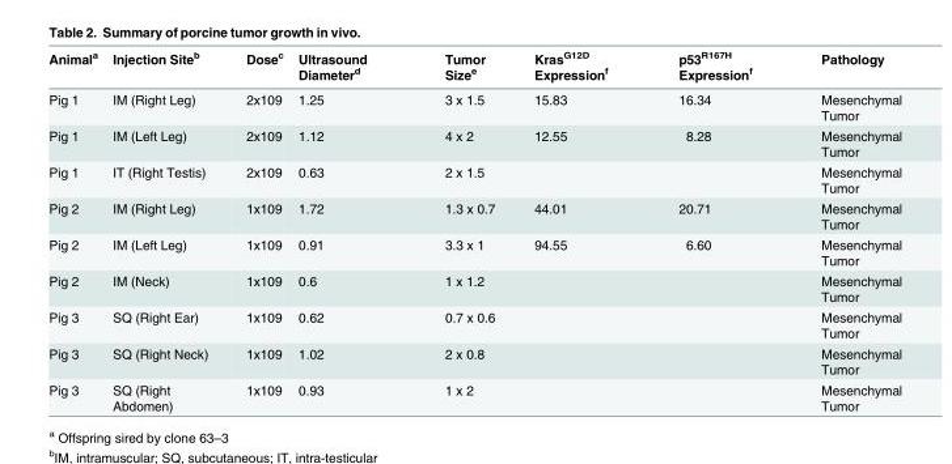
<table><thead><tr><td>Animal<sup>a</sup></td><td>Injection Site<sup>b</sup></td><td>Dose<sup>c</sup></td><td>Ultrasound Diameter<sup>d</sup></td><td>Tumor Size<sup>e</sup></td><td>Kras<sup>G12D</sup> Expression<sup>f</sup></td><td>p53<sup>R167H</sup> Expression<sup>f</sup></td><td>Pathology</td></tr></thead><tbody><tr><td>Pig 1</td><td>IM (Right Leg)</td><td>2x109</td><td>1.25</td><td>3 x 1.5</td><td>15.83</td><td>16.34</td><td>Mesenchymal Tumor</td></tr><tr><td>Pig 1</td><td>IM (Left Leg)</td><td>2x109</td><td>1.12</td><td>4 x 2</td><td>12.55</td><td>8.28</td><td>Mesenchymal Tumor</td></tr><tr><td>Pig 1</td><td>IT (Right Testis)</td><td>2x109</td><td>0.63</td><td>2 x 1.5</td><td></td><td></td><td>Mesenchymal Tumor</td></tr><tr><td>Pig 2</td><td>IM (Right Leg)</td><td>1x109</td><td>1.72</td><td>1.3 x 0.7</td><td>44.01</td><td>20.71</td><td>Mesenchymal Tumor</td></tr><tr><td>Pig 2</td><td>IM (Left Leg)</td><td>1x109</td><td>0.91</td><td>3.3 x 1</td><td>94.55</td><td>6.60</td><td>Mesenchymal Tumor</td></tr><tr><td>Pig 2</td><td>IM (Neck)</td><td>1x109</td><td>0.6</td><td>1 x 1.2</td><td></td><td></td><td>Mesenchymal Tumor</td></tr><tr><td>Pig 3</td><td>SQ (Right Ear)</td><td>1x109</td><td>0.62</td><td>0.7 x 0.6</td><td></td><td></td><td>Mesenchymal Tumor</td></tr><tr><td>Pig 3</td><td>SQ (Right Neck)</td><td>1x109</td><td>1.02</td><td>2 x 0.8</td><td></td><td></td><td>Mesenchymal Tumor</td></tr><tr><td>Pig 3</td><td>SQ (Right Abdomen)</td><td>1x109</td><td>0.93</td><td>1 x 2</td><td></td><td></td><td>Mesenchymal Tumor</td></tr></tbody></table>